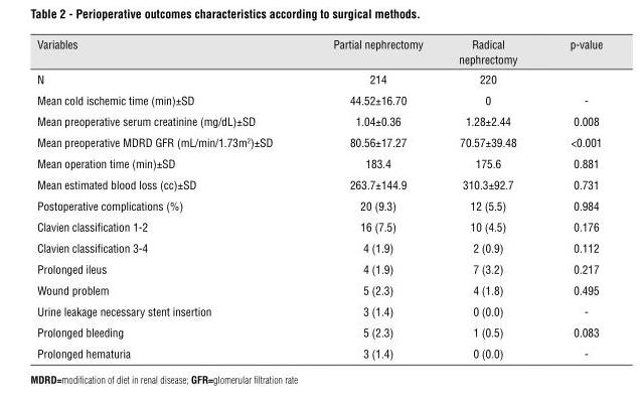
<table><thead><tr><td>Variables</td><td>Partial nephrectomy</td><td>Radical nephrectomy</td><td>p-value</td></tr></thead><tbody><tr><td>N</td><td>214</td><td>220</td><td></td></tr><tr><td>Mean cold ischemic time (min)±SD</td><td>44.52±16.70</td><td>0</td><td>-</td></tr><tr><td>Mean preoperative serum creatinine (mg/dL)±SD</td><td>1.04±0.36</td><td>1.28±2.44</td><td>0.008</td></tr><tr><td>Mean preoperative MDRD GFR (mL/min/1.73m<sup>2</sup>)±SD</td><td>80.56±17.27</td><td>70.57±39.48</td><td>&lt;0.001</td></tr><tr><td>Mean operation time (min)±SD</td><td>183.4</td><td>175.6</td><td>0.881</td></tr><tr><td>Mean estimated blood loss (cc)±SD</td><td>263.7±144.9</td><td>310.3±92.7</td><td>0.731</td></tr><tr><td>Postoperative complications (%)</td><td>20 (9.3)</td><td>12 (5.5)</td><td>0.984</td></tr><tr><td>Clavien classification 1-2</td><td>16 (7.5)</td><td>10 (4.5)</td><td>0.176</td></tr><tr><td>Clavien classification 3-4</td><td>4 (1.9)</td><td>2 (0.9)</td><td>0.112</td></tr><tr><td>Prolonged ileus</td><td>4 (1.9)</td><td>7 (3.2)</td><td>0.217</td></tr><tr><td>Wound problem</td><td>5 (2.3)</td><td>4 (1.8)</td><td>0.495</td></tr><tr><td>Urine leakage necessary stent insertion</td><td>3 (1.4)</td><td>0 (0.0)</td><td>-</td></tr><tr><td>Prolonged bleeding</td><td>5 (2.3)</td><td>1 (0.5)</td><td>0.083</td></tr><tr><td>Prolonged hematuria</td><td>3 (1.4)</td><td>0 (0.0)</td><td>-</td></tr></tbody></table>